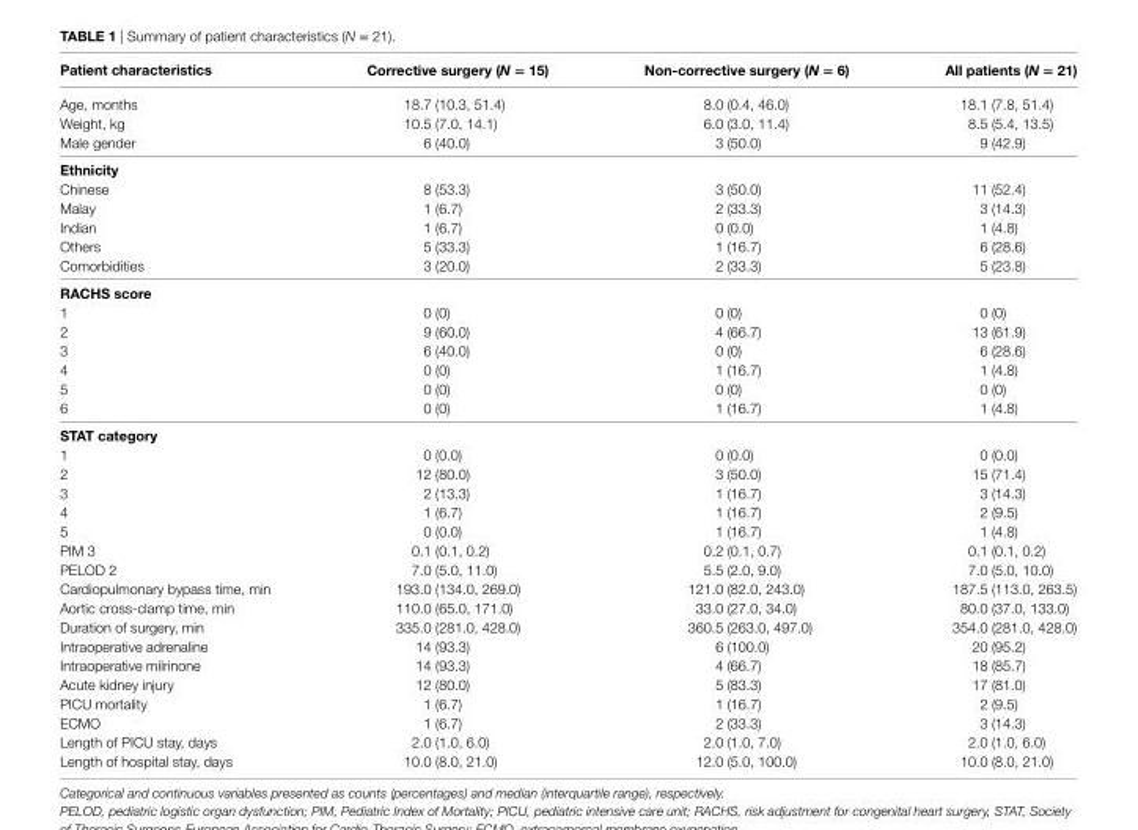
<table><thead><tr><td>Patient characteristics</td><td>corrective surgery (N = 15)</td><td>non-corrective surgery (N = 6)</td><td>all patients (N = 21)</td></tr></thead><tbody><tr><td>Age, months</td><td>18.7 (10.3, 51.4)</td><td>8.0 (0.4, 46.0)</td><td>18.1 (7.8, 51.4)</td></tr><tr><td>Weight, kg</td><td>10.5 (7.0, 14.1)</td><td>6.0 (3.0, 11.4)</td><td>8.5 (5.4, 13.5)</td></tr><tr><td>Male gender</td><td>6 (40.0)</td><td>3 (50.0)</td><td>9 (42.9)</td></tr><tr><td colspan="4">ethnicity</td></tr><tr><td>Chinese</td><td>8 (53.3)</td><td>3 (50.0)</td><td>11 (52.4)</td></tr><tr><td>Malay</td><td>1 (6.7)</td><td>2 (33.3)</td><td>3 (14.3)</td></tr><tr><td>Indian</td><td>1 (6.7)</td><td>0 (0.0)</td><td>1 (4.8)</td></tr><tr><td>Others</td><td>5 (33.3)</td><td>1 (16.7)</td><td>6 (28.6)</td></tr><tr><td>Comorbidities</td><td>3 (20.0)</td><td>2 (33.3)</td><td>5 (23.8)</td></tr><tr><td colspan="4">rachs score</td></tr><tr><td>1</td><td>0 (0)</td><td>0 (0)</td><td>0 (0)</td></tr><tr><td>2</td><td>9 (60.0)</td><td>4 (66.7)</td><td>13 (61.9)</td></tr><tr><td>3</td><td>6 (40.0)</td><td>0 (0)</td><td>6 (28.6)</td></tr><tr><td>4</td><td>0 (0)</td><td>1 (16.7)</td><td>1 (4.8)</td></tr><tr><td>5</td><td>0 (0)</td><td>0 (0)</td><td>0 (0)</td></tr><tr><td>6</td><td>0 (0)</td><td>1 (16.7)</td><td>1 (4.8)</td></tr><tr><td colspan="4">sTaT category</td></tr><tr><td>1</td><td>0 (0.0)</td><td>0 (0.0)</td><td>0 (0.0)</td></tr><tr><td>2</td><td>12 (80.0)</td><td>3 (50.0)</td><td>15 (71.4)</td></tr><tr><td>3</td><td>2 (13.3)</td><td>1 (16.7)</td><td>3 (14.3)</td></tr><tr><td>4</td><td>1 (6.7)</td><td>1 (16.7)</td><td>2 (9.5)</td></tr><tr><td>5</td><td>0 (0.0)</td><td>1 (16.7)</td><td>1 (4.8)</td></tr><tr><td>PIM 3</td><td>0.1 (0.1, 0.2)</td><td>0.2 (0.1, 0.7)</td><td>0.1 (0.1, 0.2)</td></tr><tr><td>PELOD 2</td><td>7.0 (5.0, 11.0)</td><td>5.5 (2.0, 9.0)</td><td>7.0 (5.0, 10.0)</td></tr><tr><td>Cardiopulmonary bypass time, min</td><td>193.0 (134.0, 269.0)</td><td>121.0 (82.0, 243.0)</td><td>187.5 (113.0, 263.5)</td></tr><tr><td>Aortic cross-clamp time, min</td><td>110.0 (65.0, 171.0)</td><td>33.0 (27.0, 34.0)</td><td>80.0 (37.0, 133.0)</td></tr><tr><td>Duration of surgery, min</td><td>335.0 (281.0, 428.0)</td><td>360.5 (263.0, 497.0)</td><td>354.0 (281.0, 428.0)</td></tr><tr><td>Intraoperative adrenaline</td><td>14 (93.3)</td><td>6 (100.0)</td><td>20 (95.2)</td></tr><tr><td>Intraoperative milrinone</td><td>14 (93.3)</td><td>4 (66.7)</td><td>18 (85.7)</td></tr><tr><td>Acute kidney injury</td><td>12 (80.0)</td><td>5 (83.3)</td><td>17 (81.0)</td></tr><tr><td>PICU mortality</td><td>1 (6.7)</td><td>1 (16.7)</td><td>2 (9.5)</td></tr><tr><td>ECMO</td><td>1 (6.7)</td><td>2 (33.3)</td><td>3 (14.3)</td></tr><tr><td>Length of PICU stay, days</td><td>2.0 (1.0, 6.0)</td><td>2.0 (1.0, 7.0)</td><td>2.0 (1.0, 6.0)</td></tr><tr><td>Length of hospital stay, days</td><td>10.0 (8.0, 21.0)</td><td>12.0 (5.0, 100.0)</td><td>10.0 (8.0, 21.0)</td></tr></tbody></table>